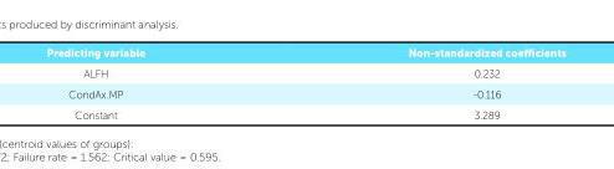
<table><thead><tr><td>Predicting variable</td><td>Non-standardized coefficients</td></tr></thead><tbody><tr><td>ALFH</td><td>0.232</td></tr><tr><td>CondAx.MP</td><td>-0.116</td></tr><tr><td>Constant</td><td>3.289</td></tr></tbody></table>